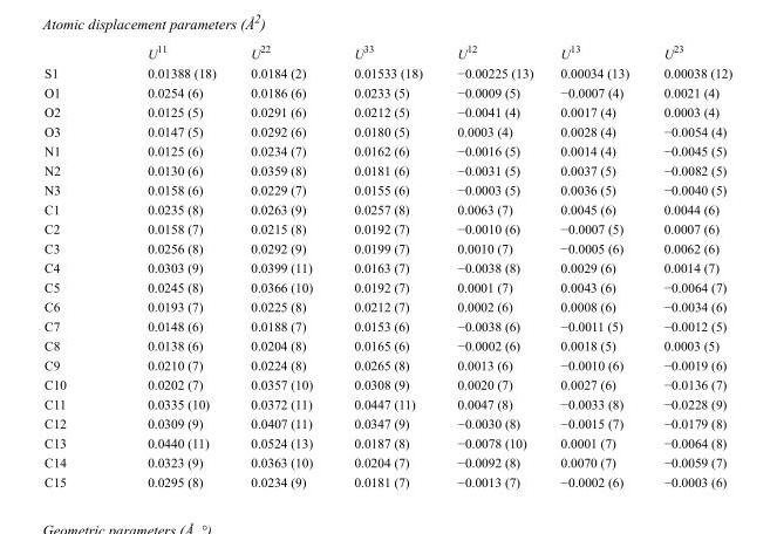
<table><thead><tr><td></td><td>U<sup>11</sup></td><td>U<sup>22</sup></td><td>U<sup>33</sup></td><td>U<sup>12</sup></td><td>U<sup>13</sup></td><td>U<sup>23</sup></td></tr></thead><tbody><tr><td>S1</td><td>0.01388 (18)</td><td>0.0184 (2)</td><td>0.01533 (18)</td><td>−0.00225 (13)</td><td>0.00034 (13)</td><td>0.00038 (12)</td></tr><tr><td>O1</td><td>0.0254 (6)</td><td>0.0186 (6)</td><td>0.0233 (5)</td><td>−0.0009 (5)</td><td>−0.0007 (4)</td><td>0.0021 (4)</td></tr><tr><td>O2</td><td>0.0125 (5)</td><td>0.0291 (6)</td><td>0.0212 (5)</td><td>−0.0041 (4)</td><td>0.0017 (4)</td><td>0.0003 (4)</td></tr><tr><td>O3</td><td>0.0147 (5)</td><td>0.0292 (6)</td><td>0.0180 (5)</td><td>0.0003 (4)</td><td>0.0028 (4)</td><td>−0.0054 (4)</td></tr><tr><td>N1</td><td>0.0125 (6)</td><td>0.0234 (7)</td><td>0.0162 (6)</td><td>−0.0016 (5)</td><td>0.0014 (4)</td><td>−0.0045 (5)</td></tr><tr><td>N2</td><td>0.0130 (6)</td><td>0.0359 (8)</td><td>0.0181 (6)</td><td>−0.0031 (5)</td><td>0.0037 (5)</td><td>−0.0082 (5)</td></tr><tr><td>N3</td><td>0.0158 (6)</td><td>0.0229 (7)</td><td>0.0155 (6)</td><td>−0.0003 (5)</td><td>0.0036 (5)</td><td>−0.0040 (5)</td></tr><tr><td>C1</td><td>0.0235 (8)</td><td>0.0263 (9)</td><td>0.0257 (8)</td><td>0.0063 (7)</td><td>0.0045 (6)</td><td>0.0044 (6)</td></tr><tr><td>C2</td><td>0.0158 (7)</td><td>0.0215 (8)</td><td>0.0192 (7)</td><td>−0.0010 (6)</td><td>−0.0007 (5)</td><td>0.0007 (6)</td></tr><tr><td>C3</td><td>0.0256 (8)</td><td>0.0292 (9)</td><td>0.0199 (7)</td><td>0.0010 (7)</td><td>−0.0005 (6)</td><td>0.0062 (6)</td></tr><tr><td>C4</td><td>0.0303 (9)</td><td>0.0399 (11)</td><td>0.0163 (7)</td><td>−0.0038 (8)</td><td>0.0029 (6)</td><td>0.0014 (7)</td></tr><tr><td>C5</td><td>0.0245 (8)</td><td>0.0366 (10)</td><td>0.0192 (7)</td><td>0.0001 (7)</td><td>0.0043 (6)</td><td>−0.0064 (7)</td></tr><tr><td>C6</td><td>0.0193 (7)</td><td>0.0225 (8)</td><td>0.0212 (7)</td><td>0.0002 (6)</td><td>0.0008 (6)</td><td>−0.0034 (6)</td></tr><tr><td>C7</td><td>0.0148 (6)</td><td>0.0188 (7)</td><td>0.0153 (6)</td><td>−0.0038 (6)</td><td>−0.0011 (5)</td><td>−0.0012 (5)</td></tr><tr><td>C8</td><td>0.0138 (6)</td><td>0.0204 (8)</td><td>0.0165 (6)</td><td>−0.0002 (6)</td><td>0.0018 (5)</td><td>0.0003 (5)</td></tr><tr><td>C9</td><td>0.0210 (7)</td><td>0.0224 (8)</td><td>0.0265 (8)</td><td>0.0013 (6)</td><td>−0.0010 (6)</td><td>−0.0019 (6)</td></tr><tr><td>C10</td><td>0.0202 (7)</td><td>0.0357 (10)</td><td>0.0308 (9)</td><td>0.0020 (7)</td><td>0.0027 (6)</td><td>−0.0136 (7)</td></tr><tr><td>C11</td><td>0.0335 (10)</td><td>0.0372 (11)</td><td>0.0447 (11)</td><td>0.0047 (8)</td><td>−0.0033 (8)</td><td>−0.0228 (9)</td></tr><tr><td>C12</td><td>0.0309 (9)</td><td>0.0407 (11)</td><td>0.0347 (9)</td><td>−0.0030 (8)</td><td>−0.0015 (7)</td><td>−0.0179 (8)</td></tr><tr><td>C13</td><td>0.0440 (11)</td><td>0.0524 (13)</td><td>0.0187 (8)</td><td>−0.0078 (10)</td><td>0.0001 (7)</td><td>−0.0064 (8)</td></tr><tr><td>C14</td><td>0.0323 (9)</td><td>0.0363 (10)</td><td>0.0204 (7)</td><td>−0.0092 (8)</td><td>0.0070 (7)</td><td>−0.0059 (7)</td></tr><tr><td>C15</td><td>0.0295 (8)</td><td>0.0234 (9)</td><td>0.0181 (7)</td><td>−0.0013 (7)</td><td>−0.0002 (6)</td><td>−0.0003 (6)</td></tr></tbody></table>